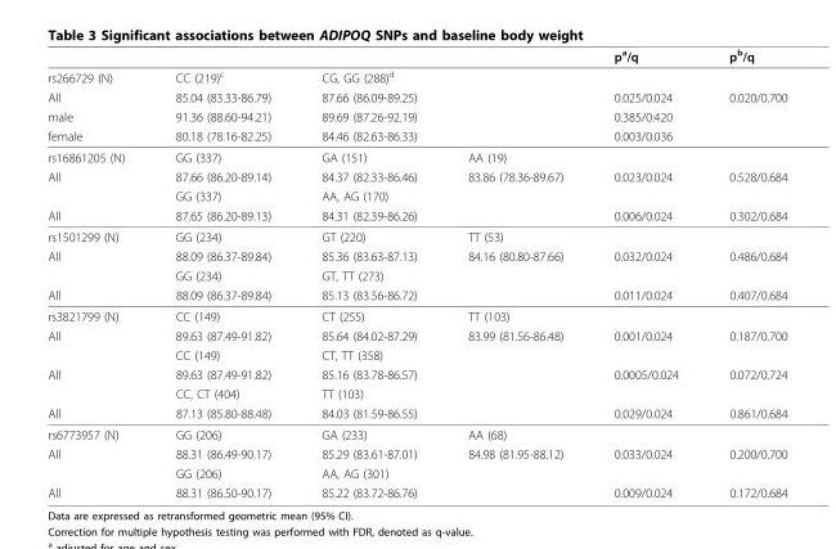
<table><thead><tr><td></td><td></td><td></td><td></td><td>p<sup>a</sup>/q</td><td>p<sup>b</sup>/q</td></tr></thead><tbody><tr><td>rs266729 (N)</td><td>CC (219)<sup>c</sup></td><td>CG, GG (288)<sup>d</sup></td><td></td><td></td><td></td></tr><tr><td>All</td><td>85.04 (83.33-86.79)</td><td>87.66 (86.09-89.25)</td><td></td><td>0.025/0.024</td><td>0.020/0.700</td></tr><tr><td>male</td><td>91.36 (88.60-94.21)</td><td>89.69 (87.26-92.19)</td><td></td><td>0.385/0.420</td><td></td></tr><tr><td>female</td><td>80.18 (78.16-82.25)</td><td>84.46 (82.63-86.33)</td><td></td><td>0.003/0.036</td><td></td></tr><tr><td>rs16861205 (N)</td><td>GG (337)</td><td>GA (151)</td><td>AA (19)</td><td></td><td></td></tr><tr><td rowspan="2">All</td><td>87.66 (86.20-89.14)</td><td>84.37 (82.33-86.46)</td><td>83.86 (78.36-89.67)</td><td>0.023/0.024</td><td>0.528/0.684</td></tr><tr><td>GG (337)</td><td>AA, AG (170)</td><td></td><td></td><td></td></tr><tr><td>All</td><td>87.65 (86.20-89.13)</td><td>84.31 (82.39-86.26)</td><td></td><td>0.006/0.024</td><td>0.302/0.684</td></tr><tr><td>rs1501299 (N)</td><td>GG (234)</td><td>GT (220)</td><td>TT (53)</td><td></td><td></td></tr><tr><td rowspan="2">All</td><td>88.09 (86.37-89.84)</td><td>85.36 (83.63-87.13)</td><td>84.16 (80.80-87.66)</td><td>0.032/0.024</td><td>0.486/0.684</td></tr><tr><td>GG (234)</td><td>GT, TT (273)</td><td></td><td></td><td></td></tr><tr><td>All</td><td>88.09 (86.37-89.84)</td><td>85.13 (83.56-86.72)</td><td></td><td>0.011/0.024</td><td>0.407/0.684</td></tr><tr><td>rs3821799 (N)</td><td>CC (149)</td><td>CT (255)</td><td>TT (103)</td><td></td><td></td></tr><tr><td rowspan="2">All</td><td>89.63 (87.49-91.82)</td><td>85.64 (84.02-87.29)</td><td>83.99 (81.56-86.48)</td><td>0.001/0.024</td><td>0.187/0.700</td></tr><tr><td>CC (149)</td><td>CT, TT (358)</td><td></td><td></td><td></td></tr><tr><td rowspan="2">All</td><td>89.63 (87.49-91.82)</td><td>85.16 (83.78-86.57)</td><td></td><td>0.0005/0.024</td><td>0.072/0.724</td></tr><tr><td>CC, CT (404)</td><td>TT (103)</td><td></td><td></td><td></td></tr><tr><td>All</td><td>87.13 (85.80-88.48)</td><td>84.03 (81.59-86.55)</td><td></td><td>0.029/0.024</td><td>0.861/0.684</td></tr><tr><td>rs6773957 (N)</td><td>GG (206)</td><td>GA (233)</td><td>AA (68)</td><td></td><td></td></tr><tr><td rowspan="2">All</td><td>88.31 (86.49-90.17)</td><td>85.29 (83.61-87.01)</td><td>84.98 (81.95-88.12)</td><td>0.033/0.024</td><td>0.200/0.700</td></tr><tr><td>GG (206)</td><td>AA, AG (301)</td><td></td><td></td><td></td></tr><tr><td>All</td><td>88.31 (86.50-90.17)</td><td>85.22 (83.72-86.76)</td><td></td><td>0.009/0.024</td><td>0.172/0.684</td></tr></tbody></table>